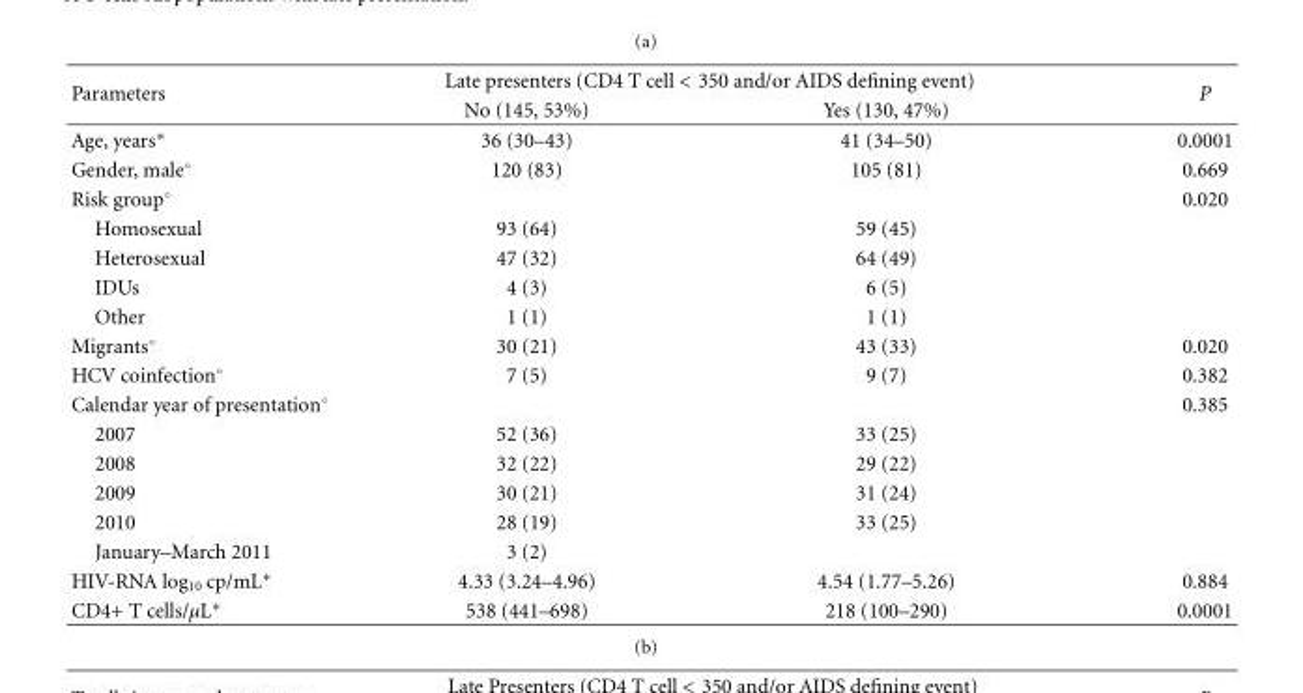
<table><tbody><tr><td rowspan="2">Parameters</td><td colspan="2">Late presenters (CD4 T cell &lt; 350 and/or AIDS defining event)</td><td rowspan="2">P</td></tr><tr><td>No (145, 53%)</td><td>Yes (130, 47%)</td></tr><tr><td>Age, years∗</td><td>36 (30–43)</td><td>41 (34–50)</td><td>0.0001</td></tr><tr><td>Gender, male◦</td><td>120 (83)</td><td>105 (81)</td><td>0.669</td></tr><tr><td>Risk group◦</td><td></td><td></td><td>0.020</td></tr><tr><td>Homosexual</td><td>93 (64)</td><td>59 (45)</td><td></td></tr><tr><td>Heterosexual</td><td>47 (32)</td><td>64 (49)</td><td></td></tr><tr><td>IDUs</td><td>4 (3)</td><td>6 (5)</td><td></td></tr><tr><td>Other</td><td>1 (1)</td><td>1 (1)</td><td></td></tr><tr><td>Migrants◦</td><td>30 (21)</td><td>43 (33)</td><td>0.020</td></tr><tr><td>HCV coinfection◦</td><td>7 (5)</td><td>9 (7)</td><td>0.382</td></tr><tr><td>Calendar year of presentation◦</td><td></td><td></td><td>0.385</td></tr><tr><td>2007</td><td>52 (36)</td><td>33 (25)</td><td></td></tr><tr><td>2008</td><td>32 (22)</td><td>29 (22)</td><td></td></tr><tr><td>2009</td><td>30 (21)</td><td>31 (24)</td><td></td></tr><tr><td>2010</td><td>28 (19)</td><td>33 (25)</td><td></td></tr><tr><td>January–March 2011</td><td>3 (2)</td><td></td><td></td></tr><tr><td>HIV-RNA log10 cp/mL∗</td><td>4.33 (3.24–4.96)</td><td>4.54 (1.77–5.26)</td><td>0.884</td></tr><tr><td>CD4+ T cells/μL∗</td><td>538 (441–698)</td><td>218 (100–290)</td><td>0.0001</td></tr></tbody></table>